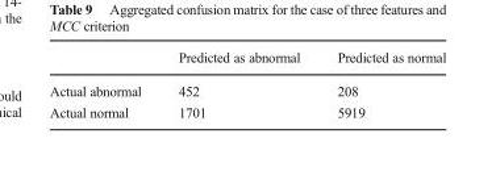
<table><thead><tr><td></td><td>Predicted as abnormal</td><td>Predicted as normal</td></tr></thead><tbody><tr><td>Actual abnormal</td><td>452</td><td>208</td></tr><tr><td>Actual normal</td><td>1701</td><td>5919</td></tr></tbody></table>